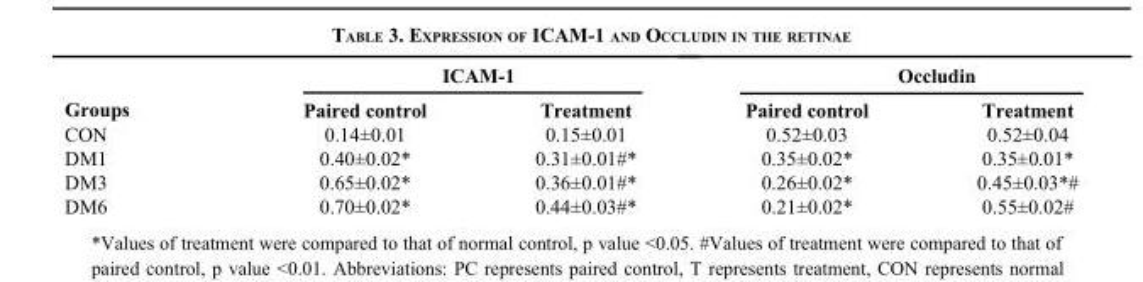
<table><thead><tr><td rowspan="2">Groups</td><td colspan="2">ICAM-1</td><td colspan="2">Occludin</td></tr><tr><td>Paired control</td><td>Treatment</td><td>Paired control</td><td>Treatment</td></tr></thead><tbody><tr><td>CON</td><td>0.14±0.01</td><td>0.15±0.01</td><td>0.52±0.03</td><td>0.52±0.04</td></tr><tr><td>DM1</td><td>0.40±0.02*</td><td>0.31±0.01#*</td><td>0.35±0.02*</td><td>0.35±0.01*</td></tr><tr><td>DM3</td><td>0.65±0.02*</td><td>0.36±0.01#*</td><td>0.26±0.02*</td><td>0.45±0.03*#</td></tr><tr><td>DM6</td><td>0.70±0.02*</td><td>0.44±0.03#*</td><td>0.21±0.02*</td><td>0.55±0.02#</td></tr></tbody></table>